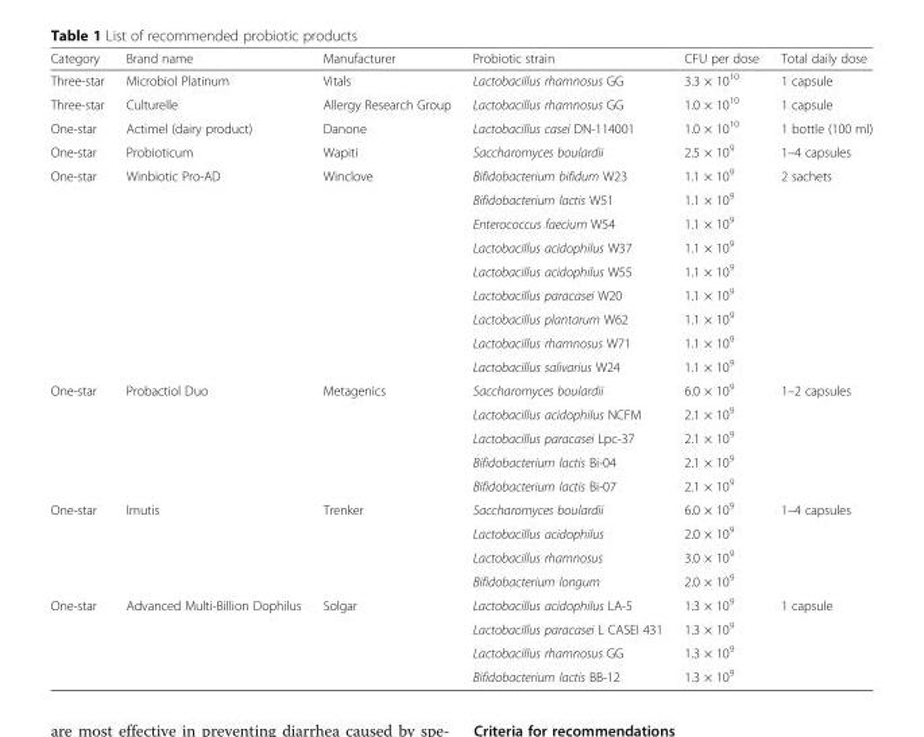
<table><thead><tr><td>Category</td><td>Brand name</td><td>Manufacturer</td><td>Probiotic strain</td><td>CFU per dose</td><td>Total daily dose</td></tr></thead><tbody><tr><td>Three-star</td><td>Microbiol Platinum</td><td>Vitals</td><td>Lactobacillus rhamnosus GG</td><td>3.3 × 10<sup>10</sup></td><td>1 capsule</td></tr><tr><td>Three-star</td><td>Culturelle</td><td>Allergy Research Group</td><td>Lactobacillus rhamnosus GG</td><td>1.0 × 10<sup>10</sup></td><td>1 capsule</td></tr><tr><td>One-star</td><td>Actimel (dairy product)</td><td>Danone</td><td>Lactobacillus casei DN-114001</td><td>1.0 × 10<sup>10</sup></td><td>1 bottle (100 ml)</td></tr><tr><td>One-star</td><td>Probioticum</td><td>Wapiti</td><td>Saccharomyces boulardii</td><td>2.5 × 10<sup>9</sup></td><td>1–4 capsules</td></tr><tr><td rowspan="9">One-star</td><td>Winbiotic Pro-AD</td><td>Winclove</td><td>Bifidobacterium bifidum W23</td><td>1.1 × 10<sup>9</sup></td><td>2 sachets</td></tr><tr><td></td><td></td><td>Bifidobacterium lactis W51</td><td>1.1 × 10<sup>9</sup></td><td></td></tr><tr><td></td><td></td><td>Enterococcus faecium W54</td><td>1.1 × 10<sup>9</sup></td><td></td></tr><tr><td></td><td></td><td>Lactobacillus acidophilus W37</td><td>1.1 × 10<sup>9</sup></td><td></td></tr><tr><td></td><td></td><td>Lactobacillus acidophilus W55</td><td>1.1 × 10<sup>9</sup></td><td></td></tr><tr><td></td><td></td><td>Lactobacillus paracasei W20</td><td>1.1 × 10<sup>9</sup></td><td></td></tr><tr><td></td><td></td><td>Lactobacillus plantarum W62</td><td>1.1 × 10<sup>9</sup></td><td></td></tr><tr><td></td><td></td><td>Lactobacillus rhamnosus W71</td><td>1.1 × 10<sup>9</sup></td><td></td></tr><tr><td></td><td></td><td>Lactobacillus salivarius W24</td><td>1.1 × 10<sup>9</sup></td><td></td></tr><tr><td rowspan="5">One-star</td><td>Probactiol Duo</td><td>Metagenics</td><td>Saccharomyces boulardii</td><td>6.0 × 10<sup>9</sup></td><td>1–2 capsules</td></tr><tr><td></td><td></td><td>Lactobacillus acidophilus NCFM</td><td>2.1 × 10<sup>9</sup></td><td></td></tr><tr><td></td><td></td><td>Lactobacillus paracasei Lpc-37</td><td>2.1 × 10<sup>9</sup></td><td></td></tr><tr><td></td><td></td><td>Bifidobacterium lactis Bi-04</td><td>2.1 × 10<sup>9</sup></td><td></td></tr><tr><td></td><td></td><td>Bifidobacterium lactis Bi-07</td><td>2.1 × 10<sup>9</sup></td><td></td></tr><tr><td rowspan="4">One-star</td><td>Imutis</td><td>Trenker</td><td>Saccharomyces boulardii</td><td>6.0 × 10<sup>9</sup></td><td>1–4 capsules</td></tr><tr><td></td><td></td><td>Lactobacillus acidophilus</td><td>2.0 × 10<sup>9</sup></td><td></td></tr><tr><td></td><td></td><td>Lactobacillus rhamnosus</td><td>3.0 × 10<sup>9</sup></td><td></td></tr><tr><td></td><td></td><td>Bifidobacterium longum</td><td>2.0 × 10<sup>9</sup></td><td></td></tr><tr><td rowspan="4">One-star</td><td>Advanced Multi-Billion Dophilus</td><td>Solgar</td><td>Lactobacillus acidophilus LA-5</td><td>1.3 × 10<sup>9</sup></td><td>1 capsule</td></tr><tr><td></td><td></td><td>Lactobacillus paracasei L CASEI 431</td><td>1.3 × 10<sup>9</sup></td><td></td></tr><tr><td></td><td></td><td>Lactobacillus rhamnosus GG</td><td>1.3 × 10<sup>9</sup></td><td></td></tr><tr><td></td><td></td><td>Bifidobacterium lactis BB-12</td><td>1.3 × 10<sup>9</sup></td><td></td></tr></tbody></table>